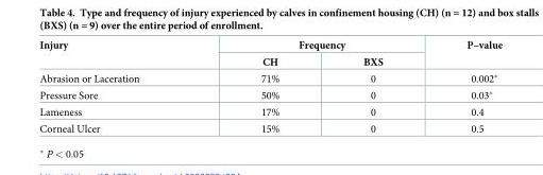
<table><thead><tr><td rowspan="2">Injury</td><td colspan="2">Frequency</td><td rowspan="2">P–value</td></tr><tr><td>CH</td><td>BXS</td></tr></thead><tbody><tr><td>Abrasion or Laceration</td><td>71%</td><td>0</td><td>0.002*</td></tr><tr><td>Pressure Sore</td><td>50%</td><td>0</td><td>0.03*</td></tr><tr><td>Lameness</td><td>17%</td><td>0</td><td>0.4</td></tr><tr><td>Corneal Ulcer</td><td>15%</td><td>0</td><td>0.5</td></tr></tbody></table>